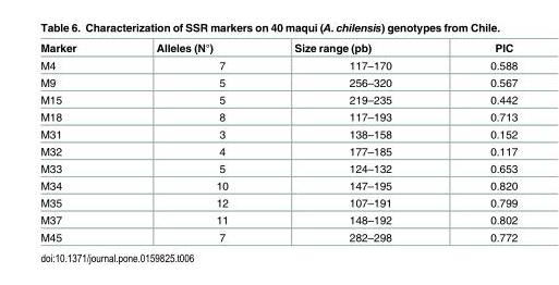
<table><thead><tr><td>Marker</td><td>Alleles (N°)</td><td>Size range (pb)</td><td>PIC</td></tr></thead><tbody><tr><td>M4</td><td>7</td><td>117–170</td><td>0.588</td></tr><tr><td>M9</td><td>5</td><td>256–320</td><td>0.567</td></tr><tr><td>M15</td><td>5</td><td>219–235</td><td>0.442</td></tr><tr><td>M18</td><td>8</td><td>117–193</td><td>0.713</td></tr><tr><td>M31</td><td>3</td><td>138–158</td><td>0.152</td></tr><tr><td>M32</td><td>4</td><td>177–185</td><td>0.117</td></tr><tr><td>M33</td><td>5</td><td>124–132</td><td>0.653</td></tr><tr><td>M34</td><td>10</td><td>147–195</td><td>0.820</td></tr><tr><td>M35</td><td>12</td><td>107–191</td><td>0.799</td></tr><tr><td>M37</td><td>11</td><td>148–192</td><td>0.802</td></tr><tr><td>M45</td><td>7</td><td>282–298</td><td>0.772</td></tr></tbody></table>